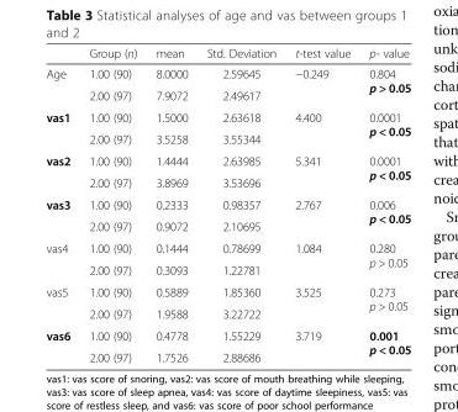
<table><thead><tr><td></td><td>Group (n)</td><td>mean</td><td>Std. Deviation</td><td>t-test value</td><td>p- value</td></tr></thead><tbody><tr><td rowspan="2">Age</td><td>1.00 (90)</td><td>8.0000</td><td>2.59645</td><td rowspan="2">−0.249</td><td rowspan="2">0.804 p &gt; 0.05</td></tr><tr><td>2.00 (97)</td><td>7.9072</td><td>2.49617</td></tr><tr><td rowspan="2">vas1</td><td>1.00 (90)</td><td>1.5000</td><td>2.63618</td><td rowspan="2">4.400</td><td rowspan="2">0.0001 p &lt; 0.05</td></tr><tr><td>2.00 (97)</td><td>3.5258</td><td>3.55344</td></tr><tr><td rowspan="2">vas2</td><td>1.00 (90)</td><td>1.4444</td><td>2.63985</td><td rowspan="2">5.341</td><td rowspan="2">0.0001 p &lt; 0.05</td></tr><tr><td>2.00 (97)</td><td>3.8969</td><td>3.53696</td></tr><tr><td rowspan="2">vas3</td><td>1.00 (90)</td><td>0.2333</td><td>0.98357</td><td rowspan="2">2.767</td><td rowspan="2">0.006 p &lt; 0.05</td></tr><tr><td>2.00 (97)</td><td>0.9072</td><td>2.10695</td></tr><tr><td rowspan="2">vas4</td><td>1.00 (90)</td><td>0.1444</td><td>0.78699</td><td rowspan="2">1.084</td><td rowspan="2">0.280 p &gt; 0.05</td></tr><tr><td>2.00 (97)</td><td>0.3093</td><td>1.22781</td></tr><tr><td rowspan="2">vas5</td><td>1.00 (90)</td><td>0.5889</td><td>1.85360</td><td rowspan="2">3.525</td><td rowspan="2">0.273 p &gt; 0.05</td></tr><tr><td>2.00 (97)</td><td>1.9588</td><td>3.22722</td></tr><tr><td rowspan="2">vas6</td><td>1.00 (90)</td><td>0.4778</td><td>1.55229</td><td rowspan="2">3.719</td><td rowspan="2">0.001 p &lt; 0.05</td></tr><tr><td>2.00 (97)</td><td>1.7526</td><td>2.88686</td></tr></tbody></table>